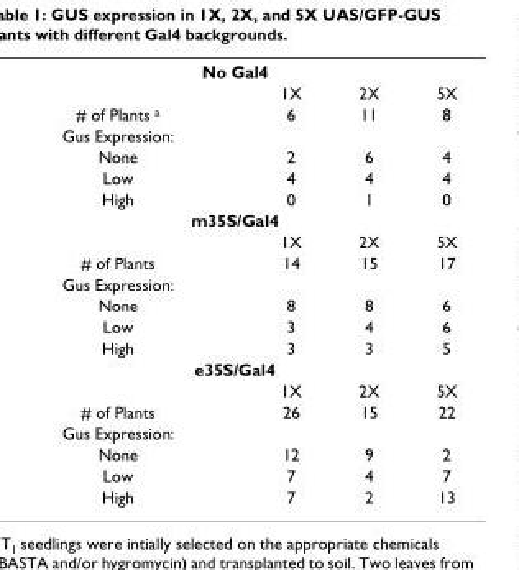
<table><tbody><tr><td colspan="4">No Gal4</td></tr><tr><td></td><td>1X</td><td>2X</td><td>5X</td></tr><tr><td># of Plants a</td><td>6</td><td>11</td><td>8</td></tr><tr><td colspan="4">Gus Expression:</td></tr><tr><td>None</td><td>2</td><td>6</td><td>4</td></tr><tr><td>Low</td><td>4</td><td>4</td><td>4</td></tr><tr><td>High</td><td>0</td><td>1</td><td>0</td></tr><tr><td colspan="4">m35S/Gal4</td></tr><tr><td></td><td>1X</td><td>2X</td><td>5X</td></tr><tr><td># of Plants</td><td>14</td><td>15</td><td>17</td></tr><tr><td colspan="4">Gus Expression:</td></tr><tr><td>None</td><td>8</td><td>8</td><td>6</td></tr><tr><td>Low</td><td>3</td><td>4</td><td>6</td></tr><tr><td>High</td><td>3</td><td>3</td><td>5</td></tr><tr><td colspan="4">e35S/Gal4</td></tr><tr><td></td><td>1X</td><td>2X</td><td>5X</td></tr><tr><td># of Plants</td><td>26</td><td>15</td><td>22</td></tr><tr><td colspan="4">Gus Expression:</td></tr><tr><td>None</td><td>12</td><td>9</td><td>2</td></tr><tr><td>Low</td><td>7</td><td>4</td><td>7</td></tr><tr><td>High</td><td>7</td><td>2</td><td>13</td></tr></tbody></table>